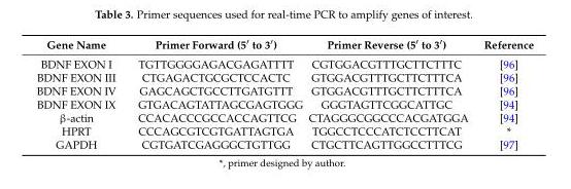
<table><thead><tr><td>Gene Name</td><td>Primer Forward (5′ to 3′)</td><td>Primer Reverse (5′ to 3′)</td><td>Reference</td></tr></thead><tbody><tr><td>BDNF EXON I</td><td>TGTTGGGGAGACGAGATTTT</td><td>CGTGGACGTTTGCTTCTTTC</td><td>[96]</td></tr><tr><td>BDNF EXON III</td><td>CTGAGACTGCGCTCCACTC</td><td>GTGGACGTTTGCTTCTTTCA</td><td>[96]</td></tr><tr><td>BDNF EXON IV</td><td>GAGCAGCTGCCTTGATGTTT</td><td>GTGGACGTTTGCTTCTTTCA</td><td>[96]</td></tr><tr><td>BDNF EXON IX</td><td>GTGACAGTATTAGCGAGTGGG</td><td>GGGTAGTTCGGCATTGC</td><td>[94]</td></tr><tr><td>β-actin</td><td>CCACACCCGCCACCAGTTCG</td><td>CTAGGGCGGCCCACGATGGA</td><td>[94]</td></tr><tr><td>HPRT</td><td>CCCAGCGTCGTGATTAGTGA</td><td>TGGCCTCCCATCTCCTTCAT</td><td>*</td></tr><tr><td>GAPDH</td><td>CGTGATCGAGGGCTGTTGG</td><td>CTGCTTCAGTTGGCCTTTCG</td><td>[97]</td></tr></tbody></table>